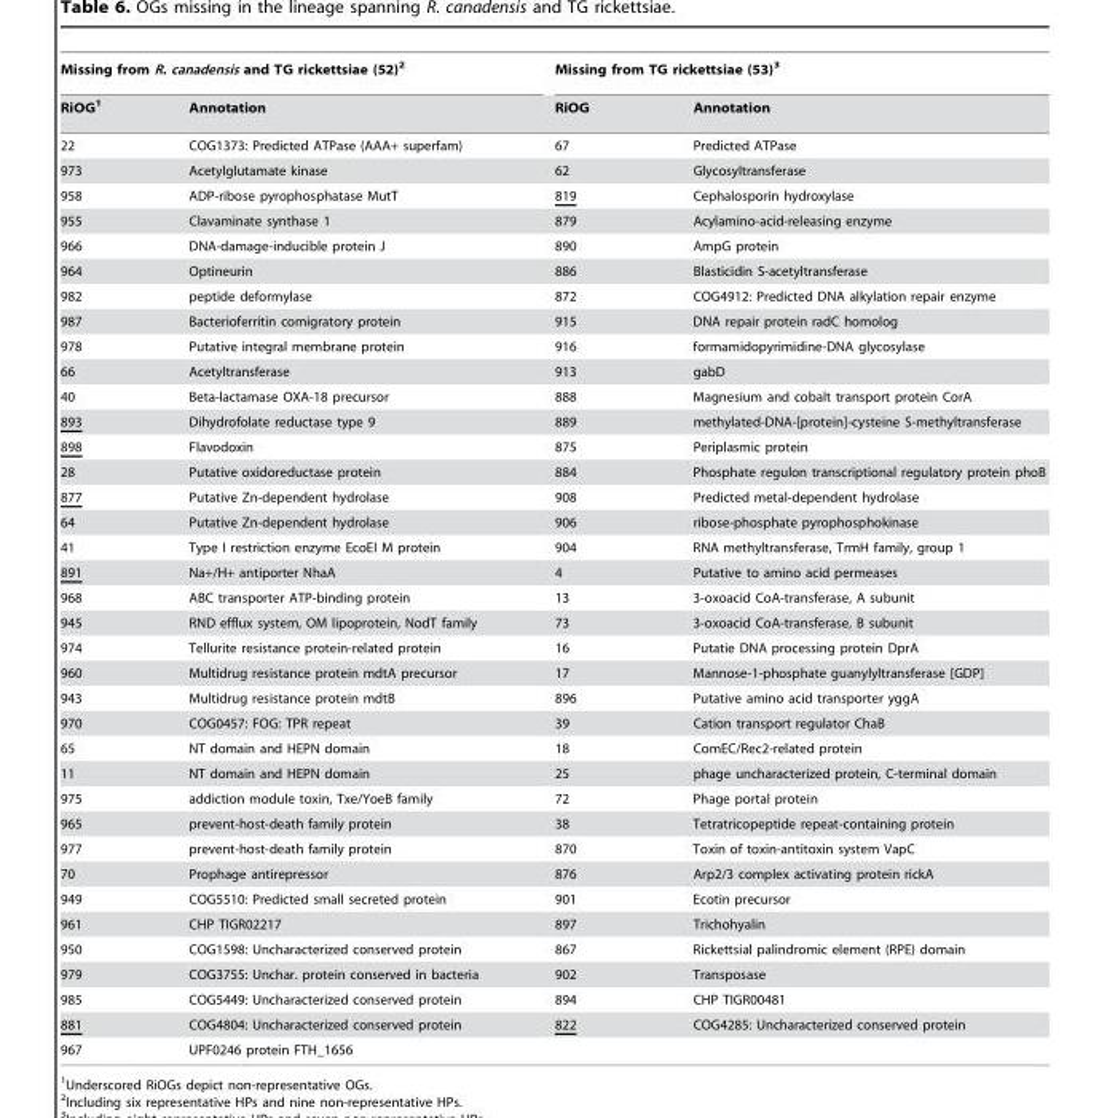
<table><thead><tr><td colspan="2">Missing from R. canadensis and TG rickettsiae (52)<sup>2</sup></td><td colspan="2">Missing from TG rickettsiae (53)<sup>3</sup></td></tr><tr><td>RiOG<sup>1</sup></td><td>Annotation</td><td>RiOG</td><td>Annotation</td></tr></thead><tbody><tr><td>22</td><td>COG1373: Predicted ATPase (AAA+ superfam)</td><td>67</td><td>Predicted ATPase</td></tr><tr><td>973</td><td>Acetylglutamate kinase</td><td>62</td><td>Glycosyltransferase</td></tr><tr><td>958</td><td>ADP-ribose pyrophosphatase MutT</td><td>819</td><td>Cephalosporin hydroxylase</td></tr><tr><td>955</td><td>Clavaminate synthase 1</td><td>879</td><td>Acylamino-acid-releasing enzyme</td></tr><tr><td>966</td><td>DNA-damage-inducible protein J</td><td>890</td><td>AmpG protein</td></tr><tr><td>964</td><td>Optineurin</td><td>886</td><td>Blasticidin S-acetyltransferase</td></tr><tr><td>982</td><td>peptide deformylase</td><td>872</td><td>COG4912: Predicted DNA alkylation repair enzyme</td></tr><tr><td>987</td><td>Bacterioferritin comigratory protein</td><td>915</td><td>DNA repair protein radC homolog</td></tr><tr><td>978</td><td>Putative integral membrane protein</td><td>916</td><td>formamidopyrimidine-DNA glycosylase</td></tr><tr><td>66</td><td>Acetyltransferase</td><td>913</td><td>gabD</td></tr><tr><td>40</td><td>Beta-lactamase OXA-18 precursor</td><td>888</td><td>Magnesium and cobalt transport protein CorA</td></tr><tr><td>893</td><td>Dihydrofolate reductase type 9</td><td>889</td><td>methylated-DNA-[protein]-cysteine S-methyltransferase</td></tr><tr><td>898</td><td>Flavodoxin</td><td>875</td><td>Periplasmic protein</td></tr><tr><td>28</td><td>Putative oxidoreductase protein</td><td>884</td><td>Phosphate regulon transcriptional regulatory protein phoB</td></tr><tr><td>877</td><td>Putative Zn-dependent hydrolase</td><td>908</td><td>Predicted metal-dependent hydrolase</td></tr><tr><td>64</td><td>Putative Zn-dependent hydrolase</td><td>906</td><td>ribose-phosphate pyrophosphokinase</td></tr><tr><td>41</td><td>Type I restriction enzyme EcoEI M protein</td><td>904</td><td>RNA methyltransferase, TrmH family, group 1</td></tr><tr><td>891</td><td>Na+/H+ antiporter NhaA</td><td>4</td><td>Putative to amino acid permeases</td></tr><tr><td>968</td><td>ABC transporter ATP-binding protein</td><td>13</td><td>3-oxoacid CoA-transferase, A subunit</td></tr><tr><td>945</td><td>RND efflux system, OM lipoprotein, NodT family</td><td>73</td><td>3-oxoacid CoA-transferase, B subunit</td></tr><tr><td>974</td><td>Tellurite resistance protein-related protein</td><td>16</td><td>Putatie DNA processing protein DprA</td></tr><tr><td>960</td><td>Multidrug resistance protein mdtA precursor</td><td>17</td><td>Mannose-1-phosphate guanylyltransferase [GDP]</td></tr><tr><td>943</td><td>Multidrug resistance protein mdtB</td><td>896</td><td>Putative amino acid transporter yggA</td></tr><tr><td>970</td><td>COG0457: FOG: TPR repeat</td><td>39</td><td>Cation transport regulator ChaB</td></tr><tr><td>65</td><td>NT domain and HEPN domain</td><td>18</td><td>ComEC/Rec2-related protein</td></tr><tr><td>11</td><td>NT domain and HEPN domain</td><td>25</td><td>phage uncharacterized protein, C-terminal domain</td></tr><tr><td>975</td><td>addiction module toxin, Txe/YoeB family</td><td>72</td><td>Phage portal protein</td></tr><tr><td>965</td><td>prevent-host-death family protein</td><td>38</td><td>Tetratricopeptide repeat-containing protein</td></tr><tr><td>977</td><td>prevent-host-death family protein</td><td>870</td><td>Toxin of toxin-antitoxin system VapC</td></tr><tr><td>70</td><td>Prophage antirepressor</td><td>876</td><td>Arp2/3 complex activating protein rickA</td></tr><tr><td>949</td><td>COG5510: Predicted small secreted protein</td><td>901</td><td>Ecotin precursor</td></tr><tr><td>961</td><td>CHP TIGR02217</td><td>897</td><td>Trichohyalin</td></tr><tr><td>950</td><td>COG1598: Uncharacterized conserved protein</td><td>867</td><td>Rickettsial palindromic element (RPE) domain</td></tr><tr><td>979</td><td>COG3755: Unchar. protein conserved in bacteria</td><td>902</td><td>Transposase</td></tr><tr><td>985</td><td>COG5449: Uncharacterized conserved protein</td><td>894</td><td>CHP TIGR00481</td></tr><tr><td>881</td><td>COG4804: Uncharacterized conserved protein</td><td>822</td><td>COG4285: Uncharacterized conserved protein</td></tr><tr><td>967</td><td>UPF0246 protein FTH_1656</td><td></td><td></td></tr></tbody></table>